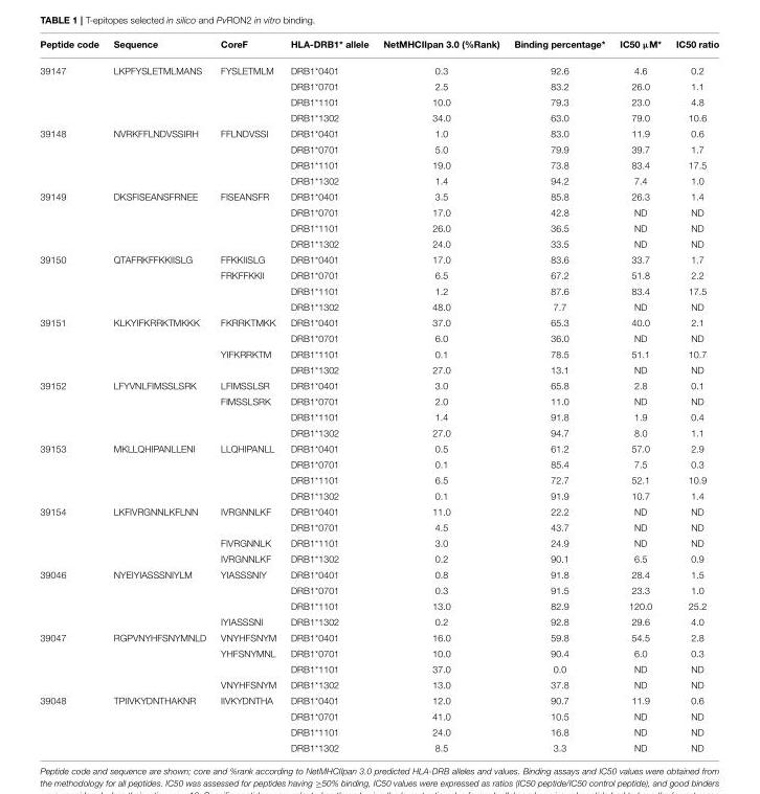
<table><thead><tr><td>Peptide code</td><td>Sequence</td><td>CoreF</td><td>HLA-DRB1* allele</td><td>NetMHCIIpan 3.0 (%Rank)</td><td>Binding percentage*</td><td>IC50 µM*</td><td>IC50 ratio</td></tr></thead><tbody><tr><td rowspan="4">39147</td><td>LKPFYSLETMLMANS</td><td>FYSLETMLM</td><td>DRB1*0401</td><td>0.3</td><td>92.6</td><td>4.6</td><td>0.2</td></tr><tr><td></td><td></td><td>DRB1*0701</td><td>2.5</td><td>83.2</td><td>26.0</td><td>1.1</td></tr><tr><td></td><td></td><td>DRB1*1101</td><td>10.0</td><td>79.3</td><td>23.0</td><td>4.8</td></tr><tr><td></td><td></td><td>DRB1*1302</td><td>34.0</td><td>63.0</td><td>79.0</td><td>10.6</td></tr><tr><td rowspan="4">39148</td><td>NVRKFFLNDVSSIRH</td><td>FFLNDVSSI</td><td>DRB1*0401</td><td>1.0</td><td>83.0</td><td>11.9</td><td>0.6</td></tr><tr><td></td><td></td><td>DRB1*0701</td><td>5.0</td><td>79.9</td><td>39.7</td><td>1.7</td></tr><tr><td></td><td></td><td>DRB1*1101</td><td>19.0</td><td>73.8</td><td>83.4</td><td>17.5</td></tr><tr><td></td><td></td><td>DRB1*1302</td><td>1.4</td><td>94.2</td><td>7.4</td><td>1.0</td></tr><tr><td rowspan="4">39149</td><td>DKSFISEANSFRNEE</td><td>FISEANSFR</td><td>DRB1*0401</td><td>3.5</td><td>85.8</td><td>26.3</td><td>1.4</td></tr><tr><td></td><td></td><td>DRB1*0701</td><td>17.0</td><td>42.8</td><td>ND</td><td>ND</td></tr><tr><td></td><td></td><td>DRB1*1101</td><td>26.0</td><td>36.5</td><td>ND</td><td>ND</td></tr><tr><td></td><td></td><td>DRB1*1302</td><td>24.0</td><td>33.5</td><td>ND</td><td>ND</td></tr><tr><td rowspan="4">39150</td><td>QTAFRKFFKKIISLG</td><td>FFKKIISLG</td><td>DRB1*0401</td><td>17.0</td><td>83.6</td><td>33.7</td><td>1.7</td></tr><tr><td></td><td>FRKFFKKII</td><td>DRB1*0701</td><td>6.5</td><td>67.2</td><td>51.8</td><td>2.2</td></tr><tr><td></td><td></td><td>DRB1*1101</td><td>1.2</td><td>87.6</td><td>83.4</td><td>17.5</td></tr><tr><td></td><td></td><td>DRB1*1302</td><td>48.0</td><td>7.7</td><td>ND</td><td>ND</td></tr><tr><td rowspan="4">39151</td><td>KLKYIFKRRKTMKKK</td><td>FKRRKTMKK</td><td>DRB1*0401</td><td>37.0</td><td>65.3</td><td>40.0</td><td>2.1</td></tr><tr><td></td><td></td><td>DRB1*0701</td><td>6.0</td><td>36.0</td><td>ND</td><td>ND</td></tr><tr><td></td><td>YIFKRRKTM</td><td>DRB1*1101</td><td>0.1</td><td>78.5</td><td>51.1</td><td>10.7</td></tr><tr><td></td><td></td><td>DRB1*1302</td><td>27.0</td><td>13.1</td><td>ND</td><td>ND</td></tr><tr><td rowspan="4">39152</td><td>LFYVNLFIMSSLSRK</td><td>LFIMSSLSR</td><td>DRB1*0401</td><td>3.0</td><td>65.8</td><td>2.8</td><td>0.1</td></tr><tr><td></td><td>FIMSSLSRK</td><td>DRB1*0701</td><td>2.0</td><td>11.0</td><td>ND</td><td>ND</td></tr><tr><td></td><td></td><td>DRB1*1101</td><td>1.4</td><td>91.8</td><td>1.9</td><td>0.4</td></tr><tr><td></td><td></td><td>DRB1*1302</td><td>27.0</td><td>94.7</td><td>8.0</td><td>1.1</td></tr><tr><td rowspan="4">39153</td><td>MKLLQHIPANLLENI</td><td>LLQHIPANLL</td><td>DRB1*0401</td><td>0.5</td><td>61.2</td><td>57.0</td><td>2.9</td></tr><tr><td></td><td></td><td>DRB1*0701</td><td>0.1</td><td>85.4</td><td>7.5</td><td>0.3</td></tr><tr><td></td><td></td><td>DRB1*1101</td><td>6.5</td><td>72.7</td><td>52.1</td><td>10.9</td></tr><tr><td></td><td></td><td>DRB1*1302</td><td>0.1</td><td>91.9</td><td>10.7</td><td>1.4</td></tr><tr><td rowspan="4">39154</td><td>LKFIVRGNNLKFLNN</td><td>IVRGNNLKF</td><td>DRB1*0401</td><td>11.0</td><td>22.2</td><td>ND</td><td>ND</td></tr><tr><td></td><td></td><td>DRB1*0701</td><td>4.5</td><td>43.7</td><td>ND</td><td>ND</td></tr><tr><td></td><td>FIVRGNNLK</td><td>DRB1*1101</td><td>3.0</td><td>24.9</td><td>ND</td><td>ND</td></tr><tr><td></td><td>IVRGNNLKF</td><td>DRB1*1302</td><td>0.2</td><td>90.1</td><td>6.5</td><td>0.9</td></tr><tr><td rowspan="4">39046</td><td>NYEIYIASSSNIYLM</td><td>YIASSSNIY</td><td>DRB1*0401</td><td>0.8</td><td>91.8</td><td>28.4</td><td>1.5</td></tr><tr><td></td><td></td><td>DRB1*0701</td><td>0.3</td><td>91.5</td><td>23.3</td><td>1.0</td></tr><tr><td></td><td></td><td>DRB1*1101</td><td>13.0</td><td>82.9</td><td>120.0</td><td>25.2</td></tr><tr><td></td><td>IYIASSSNI</td><td>DRB1*1302</td><td>0.2</td><td>92.8</td><td>29.6</td><td>4.0</td></tr><tr><td rowspan="4">39047</td><td>RGPVNYHFSNYMNLD</td><td>VNYHFSNYM</td><td>DRB1*0401</td><td>16.0</td><td>59.8</td><td>54.5</td><td>2.8</td></tr><tr><td></td><td>YHFSNYMNL</td><td>DRB1*0701</td><td>10.0</td><td>90.4</td><td>6.0</td><td>0.3</td></tr><tr><td></td><td></td><td>DRB1*1101</td><td>37.0</td><td>0.0</td><td>ND</td><td>ND</td></tr><tr><td></td><td>VNYHFSNYM</td><td>DRB1*1302</td><td>13.0</td><td>37.8</td><td>ND</td><td>ND</td></tr><tr><td rowspan="4">39048</td><td>TPIIVKYDNTHAKNR</td><td>IIVKYDNTHA</td><td>DRB1*0401</td><td>12.0</td><td>90.7</td><td>11.9</td><td>0.6</td></tr><tr><td></td><td></td><td>DRB1*0701</td><td>41.0</td><td>10.5</td><td>ND</td><td>ND</td></tr><tr><td></td><td></td><td>DRB1*1101</td><td>24.0</td><td>16.8</td><td>ND</td><td>ND</td></tr><tr><td></td><td></td><td>DRB1*1302</td><td>8.5</td><td>3.3</td><td>ND</td><td>ND</td></tr></tbody></table>